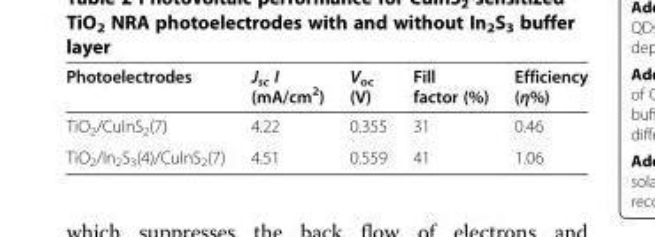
<table><thead><tr><td>Photoelectrodes</td><td>J<sub>sc</sub> I (mA/cm<sup>2</sup>)</td><td>V<sub>oc</sub> (V)</td><td>Fill factor (%)</td><td>Efficiency (η%)</td></tr></thead><tbody><tr><td>TiO<sub>2</sub>/CuInS<sub>2</sub>(7)</td><td>4.22</td><td>0.355</td><td>31</td><td>0.46</td></tr><tr><td>TiO<sub>2</sub>/In<sub>2</sub>S<sub>3</sub>(4)/CuInS<sub>2</sub>(7)</td><td>4.51</td><td>0.559</td><td>41</td><td>1.06</td></tr></tbody></table>